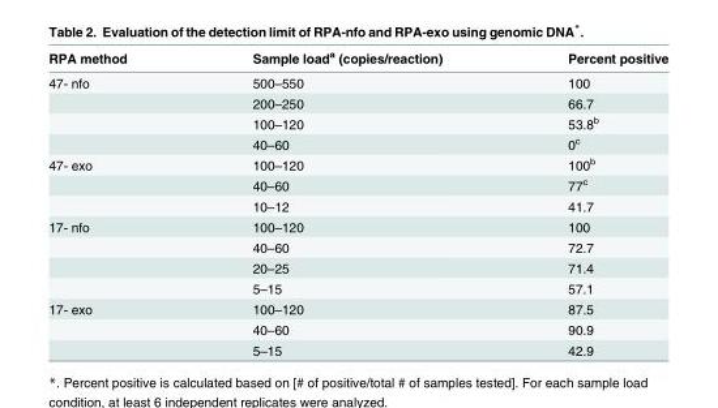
<table><thead><tr><td>RPA method</td><td>Sample load<sup>a</sup> (copies/reaction)</td><td>Percent positive</td></tr></thead><tbody><tr><td rowspan="4">47- nfo</td><td>500–550</td><td>100</td></tr><tr><td>200–250</td><td>66.7</td></tr><tr><td>100–120</td><td>53.8<sup>b</sup></td></tr><tr><td>40–60</td><td>0<sup>c</sup></td></tr><tr><td rowspan="3">47- exo</td><td>100–120</td><td>100<sup>b</sup></td></tr><tr><td>40–60</td><td>77<sup>c</sup></td></tr><tr><td>10–12</td><td>41.7</td></tr><tr><td rowspan="4">17- nfo</td><td>100–120</td><td>100</td></tr><tr><td>40–60</td><td>72.7</td></tr><tr><td>20–25</td><td>71.4</td></tr><tr><td>5–15</td><td>57.1</td></tr><tr><td rowspan="3">17- exo</td><td>100–120</td><td>87.5</td></tr><tr><td>40–60</td><td>90.9</td></tr><tr><td>5–15</td><td>42.9</td></tr></tbody></table>